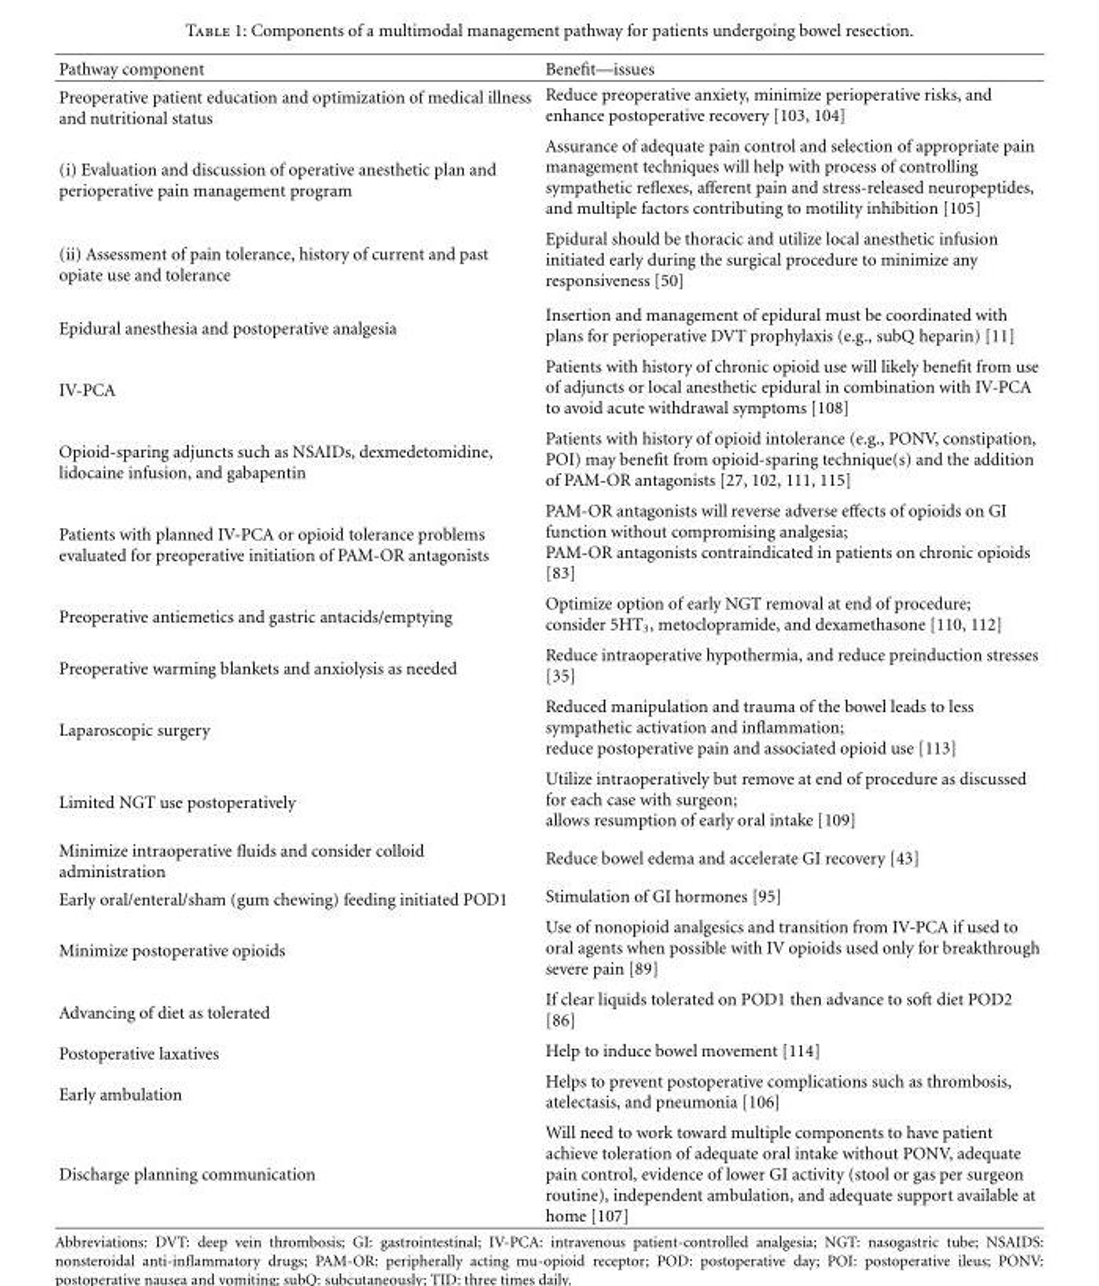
<table><thead><tr><td>Pathway component</td><td>Benefit—issues</td></tr></thead><tbody><tr><td>Preoperative patient education and optimization of medical illness and nutritional status</td><td>Reduce preoperative anxiety, minimize perioperative risks, and enhance postoperative recovery [103, 104]</td></tr><tr><td>(i) Evaluation and discussion of operative anesthetic plan and perioperative pain management program</td><td>Assurance of adequate pain control and selection of appropriate pain management techniques will help with process of controlling sympathetic reflexes, afferent pain and stress-released neuropeptides, and multiple factors contributing to motility inhibition [105]</td></tr><tr><td>(ii) Assessment of pain tolerance, history of current and past opiate use and tolerance</td><td>Epidural should be thoracic and utilize local anesthetic infusion initiated early during the surgical procedure to minimize any responsiveness [50]</td></tr><tr><td>Epidural anesthesia and postoperative analgesia</td><td>Insertion and management of epidural must be coordinated with plans for perioperative DVT prophylaxis (e.g., subQ heparin) [11]</td></tr><tr><td>IV-PCA</td><td>Patients with history of chronic opioid use will likely benefit from use of adjuncts or local anesthetic epidural in combination with IV-PCA to avoid acute withdrawal symptoms [108]</td></tr><tr><td>Opioid-sparing adjuncts such as NSAIDs, dexmedetomidine, lidocaine infusion, and gabapentin</td><td>Patients with history of opioid intolerance (e.g., PONV, constipation, POI) may benefit from opioid-sparing technique(s) and the addition of PAM-OR antagonists [27, 102, 111, 115]</td></tr><tr><td>Patients with planned IV-PCA or opioid tolerance problems evaluated for preoperative initiation of PAM-OR antagonists</td><td>PAM-OR antagonists will reverse adverse effects of opioids on GI function without compromising analgesia; PAM-OR antagonists contraindicated in patients on chronic opioids [83]</td></tr><tr><td>Preoperative antiemetics and gastric antacids/emptying</td><td>Optimize option of early NGT removal at end of procedure; consider 5HT<sub>3</sub>, metoclopramide, and dexamethasone [110, 112]</td></tr><tr><td>Preoperative warming blankets and anxiolysis as needed</td><td>Reduce intraoperative hypothermia, and reduce preinduction stresses [35]</td></tr><tr><td>Laparoscopic surgery</td><td>Reduced manipulation and trauma of the bowel leads to less sympathetic activation and inflammation; reduce postoperative pain and associated opioid use [113]</td></tr><tr><td>Limited NGT use postoperatively</td><td>Utilize intraoperatively but remove at end of procedure as discussed for each case with surgeon; allows resumption of early oral intake [109]</td></tr><tr><td>Minimize intraoperative fluids and consider colloid administration</td><td>Reduce bowel edema and accelerate GI recovery [43]</td></tr><tr><td>Early oral/enteral/sham (gum chewing) feeding initiated POD1</td><td>Stimulation of GI hormones [95]</td></tr><tr><td>Minimize postoperative opioids</td><td>Use of nonopioid analgesics and transition from IV-PCA if used to oral agents when possible with IV opioids used only for breakthrough severe pain [89]</td></tr><tr><td>Advancing of diet as tolerated</td><td>If clear liquids tolerated on POD1 then advance to soft diet POD2 [86]</td></tr><tr><td>Postoperative laxatives</td><td>Help to induce bowel movement [114]</td></tr><tr><td>Early ambulation</td><td>Helps to prevent postoperative complications such as thrombosis, atelectasis, and pneumonia [106]</td></tr><tr><td>Discharge planning communication</td><td>Will need to work toward multiple components to have patient achieve toleration of adequate oral intake without PONV, adequate pain control, evidence of lower GI activity (stool or gas per surgeon routine), independent ambulation, and adequate support available at home [107]</td></tr></tbody></table>